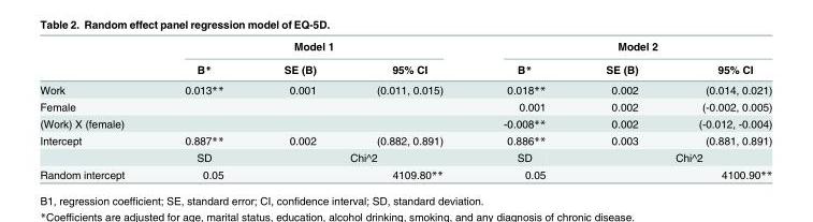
<table><thead><tr><td rowspan="2"></td><td colspan="3">Model 1</td><td colspan="3">Model 2</td></tr><tr><td>B*</td><td>SE (B)</td><td>95% CI</td><td>B*</td><td>SE (B)</td><td>95% CI</td></tr></thead><tbody><tr><td>Work</td><td>0.013**</td><td>0.001</td><td>(0.011, 0.015)</td><td>0.018**</td><td>0.002</td><td>(0.014, 0.021)</td></tr><tr><td>Female</td><td></td><td></td><td></td><td>0.001</td><td>0.002</td><td>(-0.002, 0.005)</td></tr><tr><td>(Work) X (female)</td><td></td><td></td><td></td><td>-0.008**</td><td>0.002</td><td>(-0.012, -0.004)</td></tr><tr><td rowspan="2">Intercept</td><td>0.887**</td><td>0.002</td><td>(0.882, 0.891)</td><td>0.886**</td><td>0.003</td><td>(0.881, 0.891)</td></tr><tr><td>SD</td><td colspan="2">Chi^2</td><td>SD</td><td colspan="2">Chi^2</td></tr><tr><td>Random intercept</td><td>0.05</td><td colspan="2">4109.80**</td><td>0.05</td><td colspan="2">4100.90**</td></tr></tbody></table>